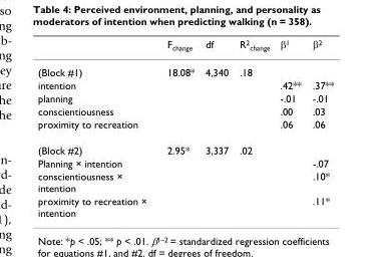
<table><thead><tr><td></td><td>F<sub>change</sub></td><td>df</td><td>R<sup>2</sup><sub>change</sub></td><td>β<sup>1</sup></td><td>β<sup>2</sup></td></tr></thead><tbody><tr><td>(Block #1)</td><td>18.08*</td><td>4,340</td><td>.18</td><td></td><td></td></tr><tr><td>intention</td><td></td><td></td><td></td><td>.42**</td><td>.37**</td></tr><tr><td>planning</td><td></td><td></td><td></td><td>-.01</td><td>-.01</td></tr><tr><td>conscientiousness</td><td></td><td></td><td></td><td>.00</td><td>.03</td></tr><tr><td>proximity to recreation</td><td></td><td></td><td></td><td>.06</td><td>.06</td></tr><tr><td>(Block #2)</td><td>2.95*</td><td>3,337</td><td>.02</td><td></td><td></td></tr><tr><td>Planning × intention</td><td></td><td></td><td></td><td></td><td>-.07</td></tr><tr><td>conscientiousness × intention</td><td></td><td></td><td></td><td></td><td>.10*</td></tr><tr><td>proximity to recreation × intention</td><td></td><td></td><td></td><td></td><td>.11*</td></tr></tbody></table>